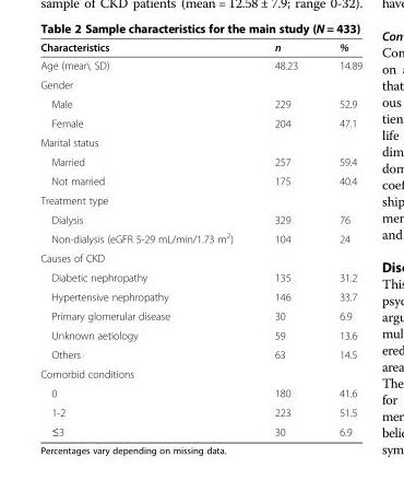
<table><thead><tr><td>Characteristics</td><td>n</td><td>%</td></tr></thead><tbody><tr><td>Age (mean, SD)</td><td>48.23</td><td>14.89</td></tr><tr><td colspan="3">Gender</td></tr><tr><td>Male</td><td>229</td><td>52.9</td></tr><tr><td>Female</td><td>204</td><td>47.1</td></tr><tr><td colspan="3">Marital status</td></tr><tr><td>Married</td><td>257</td><td>59.4</td></tr><tr><td>Not married</td><td>175</td><td>40.4</td></tr><tr><td colspan="3">Treatment type</td></tr><tr><td>Dialysis</td><td>329</td><td>76</td></tr><tr><td>Non-dialysis (eGFR 5-29 mL/min/1.73 m<sup>2</sup>)</td><td>104</td><td>24</td></tr><tr><td colspan="3">Causes of CKD</td></tr><tr><td>Diabetic nephropathy</td><td>135</td><td>31.2</td></tr><tr><td>Hypertensive nephropathy</td><td>146</td><td>33.7</td></tr><tr><td>Primary glomerular disease</td><td>30</td><td>6.9</td></tr><tr><td>Unknown aetiology</td><td>59</td><td>13.6</td></tr><tr><td>Others</td><td>63</td><td>14.5</td></tr><tr><td colspan="3">Comorbid conditions</td></tr><tr><td>0</td><td>180</td><td>41.6</td></tr><tr><td>1-2</td><td>223</td><td>51.5</td></tr><tr><td>≤3</td><td>30</td><td>6.9</td></tr></tbody></table>